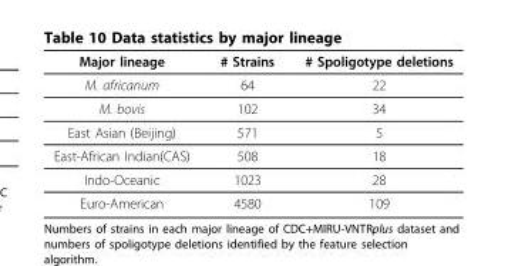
<table><thead><tr><td>Major lineage</td><td># Strains</td><td># Spoligotype deletions</td></tr></thead><tbody><tr><td>M. africanum</td><td>64</td><td>22</td></tr><tr><td>M. bovis</td><td>102</td><td>34</td></tr><tr><td>East Asian (Beijing)</td><td>571</td><td>5</td></tr><tr><td>East-African Indian(CAS)</td><td>508</td><td>18</td></tr><tr><td>Indo-Oceanic</td><td>1023</td><td>28</td></tr><tr><td>Euro-American</td><td>4580</td><td>109</td></tr></tbody></table>